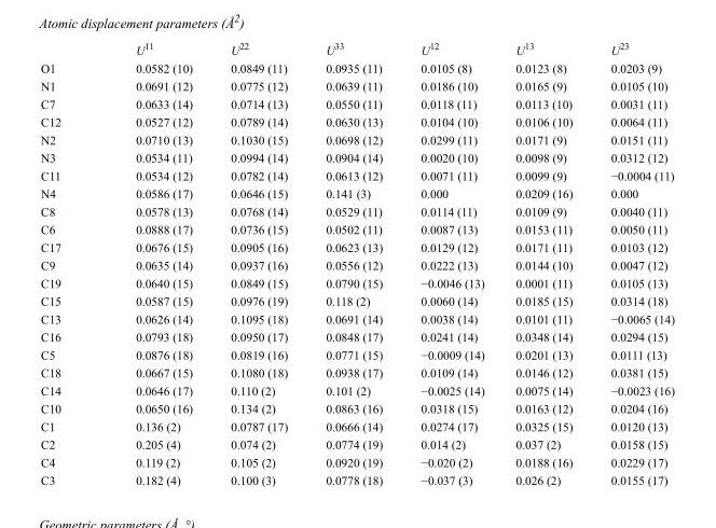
<table><thead><tr><td></td><td>U<sup>11</sup></td><td>U<sup>22</sup></td><td>U<sup>33</sup></td><td>U<sup>12</sup></td><td>U<sup>13</sup></td><td>U<sup>23</sup></td></tr></thead><tbody><tr><td>O1</td><td>0.0582 (10)</td><td>0.0849 (11)</td><td>0.0935 (11)</td><td>0.0105 (8)</td><td>0.0123 (8)</td><td>0.0203 (9)</td></tr><tr><td>N1</td><td>0.0691 (12)</td><td>0.0775 (12)</td><td>0.0639 (11)</td><td>0.0186 (10)</td><td>0.0165 (9)</td><td>0.0105 (10)</td></tr><tr><td>C7</td><td>0.0633 (14)</td><td>0.0714 (13)</td><td>0.0550 (11)</td><td>0.0118 (11)</td><td>0.0113 (10)</td><td>0.0031 (11)</td></tr><tr><td>C12</td><td>0.0527 (12)</td><td>0.0789 (14)</td><td>0.0630 (13)</td><td>0.0104 (10)</td><td>0.0106 (10)</td><td>0.0064 (11)</td></tr><tr><td>N2</td><td>0.0710 (13)</td><td>0.1030 (15)</td><td>0.0698 (12)</td><td>0.0299 (11)</td><td>0.0171 (9)</td><td>0.0151 (11)</td></tr><tr><td>N3</td><td>0.0534 (11)</td><td>0.0994 (14)</td><td>0.0904 (14)</td><td>0.0020 (10)</td><td>0.0098 (9)</td><td>0.0312 (12)</td></tr><tr><td>C11</td><td>0.0534 (12)</td><td>0.0782 (14)</td><td>0.0613 (12)</td><td>0.0071 (11)</td><td>0.0099 (9)</td><td>−0.0004 (11)</td></tr><tr><td>N4</td><td>0.0586 (17)</td><td>0.0646 (15)</td><td>0.141 (3)</td><td>0.000</td><td>0.0209 (16)</td><td>0.000</td></tr><tr><td>C8</td><td>0.0578 (13)</td><td>0.0768 (14)</td><td>0.0529 (11)</td><td>0.0114 (11)</td><td>0.0109 (9)</td><td>0.0040 (11)</td></tr><tr><td>C6</td><td>0.0888 (17)</td><td>0.0736 (15)</td><td>0.0502 (11)</td><td>0.0087 (13)</td><td>0.0153 (11)</td><td>0.0050 (11)</td></tr><tr><td>C17</td><td>0.0676 (15)</td><td>0.0905 (16)</td><td>0.0623 (13)</td><td>0.0129 (12)</td><td>0.0171 (11)</td><td>0.0103 (12)</td></tr><tr><td>C9</td><td>0.0635 (14)</td><td>0.0937 (16)</td><td>0.0556 (12)</td><td>0.0222 (13)</td><td>0.0144 (10)</td><td>0.0047 (12)</td></tr><tr><td>C19</td><td>0.0640 (15)</td><td>0.0849 (15)</td><td>0.0790 (15)</td><td>−0.0046 (13)</td><td>0.0001 (11)</td><td>0.0105 (13)</td></tr><tr><td>C15</td><td>0.0587 (15)</td><td>0.0976 (19)</td><td>0.118 (2)</td><td>0.0060 (14)</td><td>0.0185 (15)</td><td>0.0314 (18)</td></tr><tr><td>C13</td><td>0.0626 (14)</td><td>0.1095 (18)</td><td>0.0691 (14)</td><td>0.0038 (14)</td><td>0.0101 (11)</td><td>−0.0065 (14)</td></tr><tr><td>C16</td><td>0.0793 (18)</td><td>0.0950 (17)</td><td>0.0848 (17)</td><td>0.0241 (14)</td><td>0.0348 (14)</td><td>0.0294 (15)</td></tr><tr><td>C5</td><td>0.0876 (18)</td><td>0.0819 (16)</td><td>0.0771 (15)</td><td>−0.0009 (14)</td><td>0.0201 (13)</td><td>0.0111 (13)</td></tr><tr><td>C18</td><td>0.0667 (15)</td><td>0.1080 (18)</td><td>0.0938 (17)</td><td>0.0109 (14)</td><td>0.0146 (12)</td><td>0.0381 (15)</td></tr><tr><td>C14</td><td>0.0646 (17)</td><td>0.110 (2)</td><td>0.101 (2)</td><td>−0.0025 (14)</td><td>0.0075 (14)</td><td>−0.0023 (16)</td></tr><tr><td>C10</td><td>0.0650 (16)</td><td>0.134 (2)</td><td>0.0863 (16)</td><td>0.0318 (15)</td><td>0.0163 (12)</td><td>0.0204 (16)</td></tr><tr><td>C1</td><td>0.136 (2)</td><td>0.0787 (17)</td><td>0.0666 (14)</td><td>0.0274 (17)</td><td>0.0325 (15)</td><td>0.0120 (13)</td></tr><tr><td>C2</td><td>0.205 (4)</td><td>0.074 (2)</td><td>0.0774 (19)</td><td>0.014 (2)</td><td>0.037 (2)</td><td>0.0158 (15)</td></tr><tr><td>C4</td><td>0.119 (2)</td><td>0.105 (2)</td><td>0.0920 (19)</td><td>−0.020 (2)</td><td>0.0188 (16)</td><td>0.0229 (17)</td></tr><tr><td>C3</td><td>0.182 (4)</td><td>0.100 (3)</td><td>0.0778 (18)</td><td>−0.037 (3)</td><td>0.026 (2)</td><td>0.0155 (17)</td></tr></tbody></table>